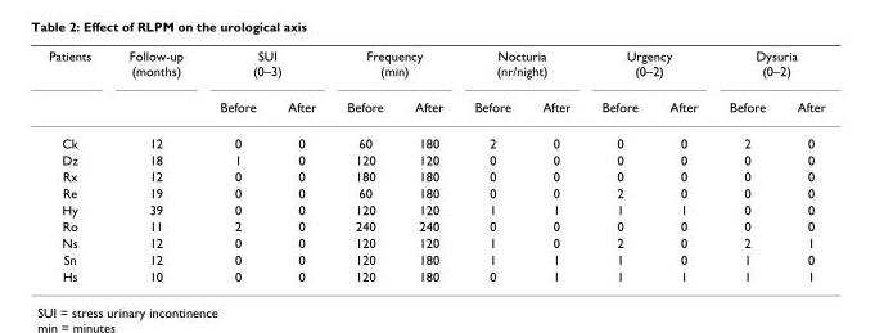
<table><thead><tr><td rowspan="2">Patients</td><td rowspan="2">Follow-up (months)</td><td colspan="2">SUI (0–3)</td><td colspan="2">Frequency (min)</td><td colspan="2">Nocturia (nr/night)</td><td colspan="2">Urgency (0–2)</td><td colspan="2">Dysuria (0–2)</td></tr><tr><td>Before</td><td>After</td><td>Before</td><td>After</td><td>Before</td><td>After</td><td>Before</td><td>After</td><td>Before</td><td>After</td></tr></thead><tbody><tr><td>Ck</td><td>12</td><td>0</td><td>0</td><td>60</td><td>180</td><td>2</td><td>0</td><td>0</td><td>0</td><td>2</td><td>0</td></tr><tr><td>Dz</td><td>18</td><td>1</td><td>0</td><td>120</td><td>120</td><td>0</td><td>0</td><td>0</td><td>0</td><td>0</td><td>0</td></tr><tr><td>Rx</td><td>12</td><td>0</td><td>0</td><td>180</td><td>180</td><td>0</td><td>0</td><td>0</td><td>0</td><td>0</td><td>0</td></tr><tr><td>Re</td><td>19</td><td>0</td><td>0</td><td>60</td><td>180</td><td>0</td><td>0</td><td>2</td><td>0</td><td>0</td><td>0</td></tr><tr><td>Hy</td><td>39</td><td>0</td><td>0</td><td>120</td><td>120</td><td>1</td><td>1</td><td>1</td><td>1</td><td>0</td><td>0</td></tr><tr><td>Ro</td><td>11</td><td>2</td><td>0</td><td>240</td><td>240</td><td>0</td><td>0</td><td>0</td><td>0</td><td>0</td><td>0</td></tr><tr><td>Ns</td><td>12</td><td>0</td><td>0</td><td>120</td><td>120</td><td>1</td><td>0</td><td>2</td><td>0</td><td>2</td><td>1</td></tr><tr><td>Sn</td><td>12</td><td>0</td><td>0</td><td>120</td><td>180</td><td>1</td><td>1</td><td>1</td><td>0</td><td>1</td><td>0</td></tr><tr><td>Hs</td><td>10</td><td>0</td><td>0</td><td>120</td><td>180</td><td>0</td><td>1</td><td>1</td><td>1</td><td>1</td><td>1</td></tr></tbody></table>